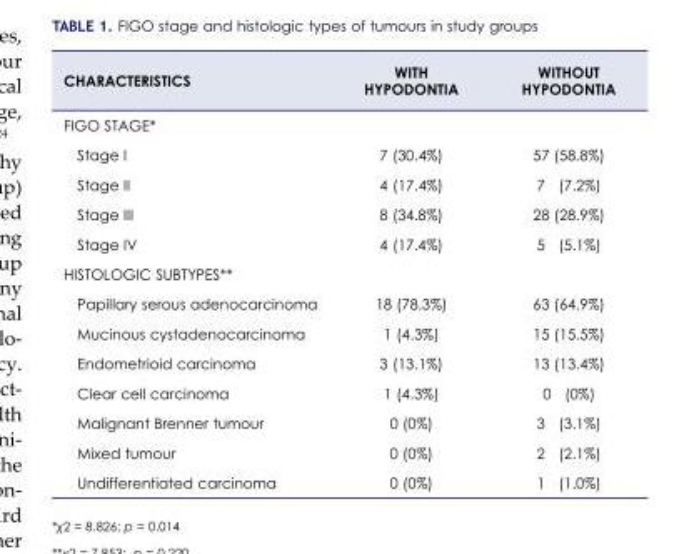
<table><thead><tr><td>CHARACTERISTICS</td><td>WITH HYPODONTIA</td><td>WITHOUT HYPODONTIA</td></tr></thead><tbody><tr><td colspan="3">FIGO STAGE*</td></tr><tr><td>Stage I</td><td>7 (30.4%)</td><td>57 (58.8%)</td></tr><tr><td>Stage II</td><td>4 (17.4%)</td><td>7 (7.2%)</td></tr><tr><td>Stage III</td><td>8 (34.8%)</td><td>28 (28.9%)</td></tr><tr><td>Stage IV</td><td>4 (17.4%)</td><td>5 (5.1%)</td></tr><tr><td colspan="3">HISTOLOGIC SUBTYPES**</td></tr><tr><td>Papillary serous adenocarcinoma</td><td>18 (78.3%)</td><td>63 (64.9%)</td></tr><tr><td>Mucinous cystadenocarcinoma</td><td>1 (4.3%)</td><td>15 (15.5%)</td></tr><tr><td>Endometrioid carcinoma</td><td>3 (13.1%)</td><td>13 (13.4%)</td></tr><tr><td>Clear cell carcinoma</td><td>1 (4.3%)</td><td>0 (0%)</td></tr><tr><td>Malignant Brenner tumour</td><td>0 (0%)</td><td>3 (3.1%)</td></tr><tr><td>Mixed tumour</td><td>0 (0%)</td><td>2 (2.1%)</td></tr><tr><td>Undifferentiated carcinoma</td><td>0 (0%)</td><td>1 (1.0%)</td></tr></tbody></table>